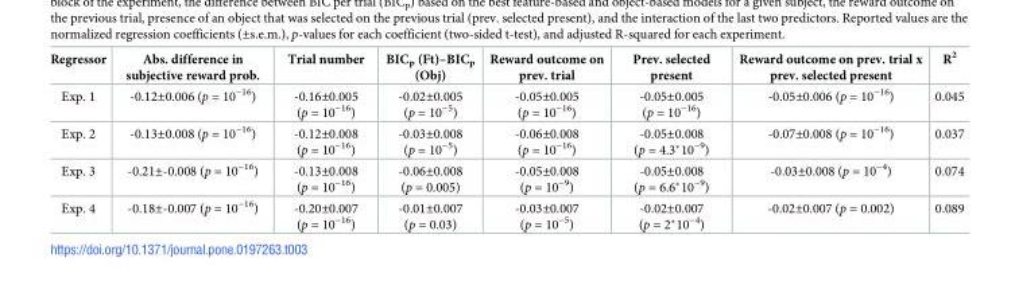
<table><thead><tr><td>Regressor</td><td>Abs. difference in subjective reward prob.</td><td>Trial number</td><td>BIC<sub>p</sub> (Ft)–BIC<sub>p</sub> (Obj)</td><td>Reward outcome on prev. trial</td><td>Prev. selected present</td><td>Reward outcome on prev. trial x prev. selected present</td><td>R<sup>2</sup></td></tr></thead><tbody><tr><td>Exp. 1</td><td>-0.12±0.006 (p = 10<sup>−16</sup>)</td><td>-0.16±0.005 (p = 10<sup>−16</sup>)</td><td>-0.02±0.005 (p = 10<sup>−5</sup>)</td><td>-0.05±0.005 (p = 10<sup>−16</sup>)</td><td>-0.05±0.005 (p = 10<sup>−16</sup>)</td><td>-0.05±0.006 (p = 10<sup>−16</sup>)</td><td>0.045</td></tr><tr><td>Exp. 2</td><td>-0.13±0.008 (p = 10<sup>−16</sup>)</td><td>-0.12±0.008 (p = 10<sup>−16</sup>)</td><td>-0.03±0.008 (p = 10<sup>−5</sup>)</td><td>-0.06±0.008 (p = 10<sup>−16</sup>)</td><td>-0.05±0.008 (p = 4.3*10<sup>−9</sup>)</td><td>-0.07±0.008 (p = 10<sup>−16</sup>)</td><td>0.037</td></tr><tr><td>Exp. 3</td><td>-0.21±-0.008 (p = 10<sup>−16</sup>)</td><td>-0.13±0.008 (p = 10<sup>−16</sup>)</td><td>-0.06±0.008 (p = 0.005)</td><td>-0.05±0.008 (p = 10<sup>−9</sup>)</td><td>-0.05±0.008 (p = 6.6*10<sup>−9</sup>)</td><td>-0.03±0.008 (p = 10<sup>−4</sup>)</td><td>0.074</td></tr><tr><td>Exp. 4</td><td>-0.18±-0.007 (p = 10<sup>−16</sup>)</td><td>-0.20±0.007 (p = 10<sup>−16</sup>)</td><td>-0.01±0.007 (p = 0.03)</td><td>-0.03±0.007 (p = 10<sup>−5</sup>)</td><td>-0.02±0.007 (p = 2*10<sup>−4</sup>)</td><td>-0.02±0.007 (p = 0.002)</td><td>0.089</td></tr></tbody></table>